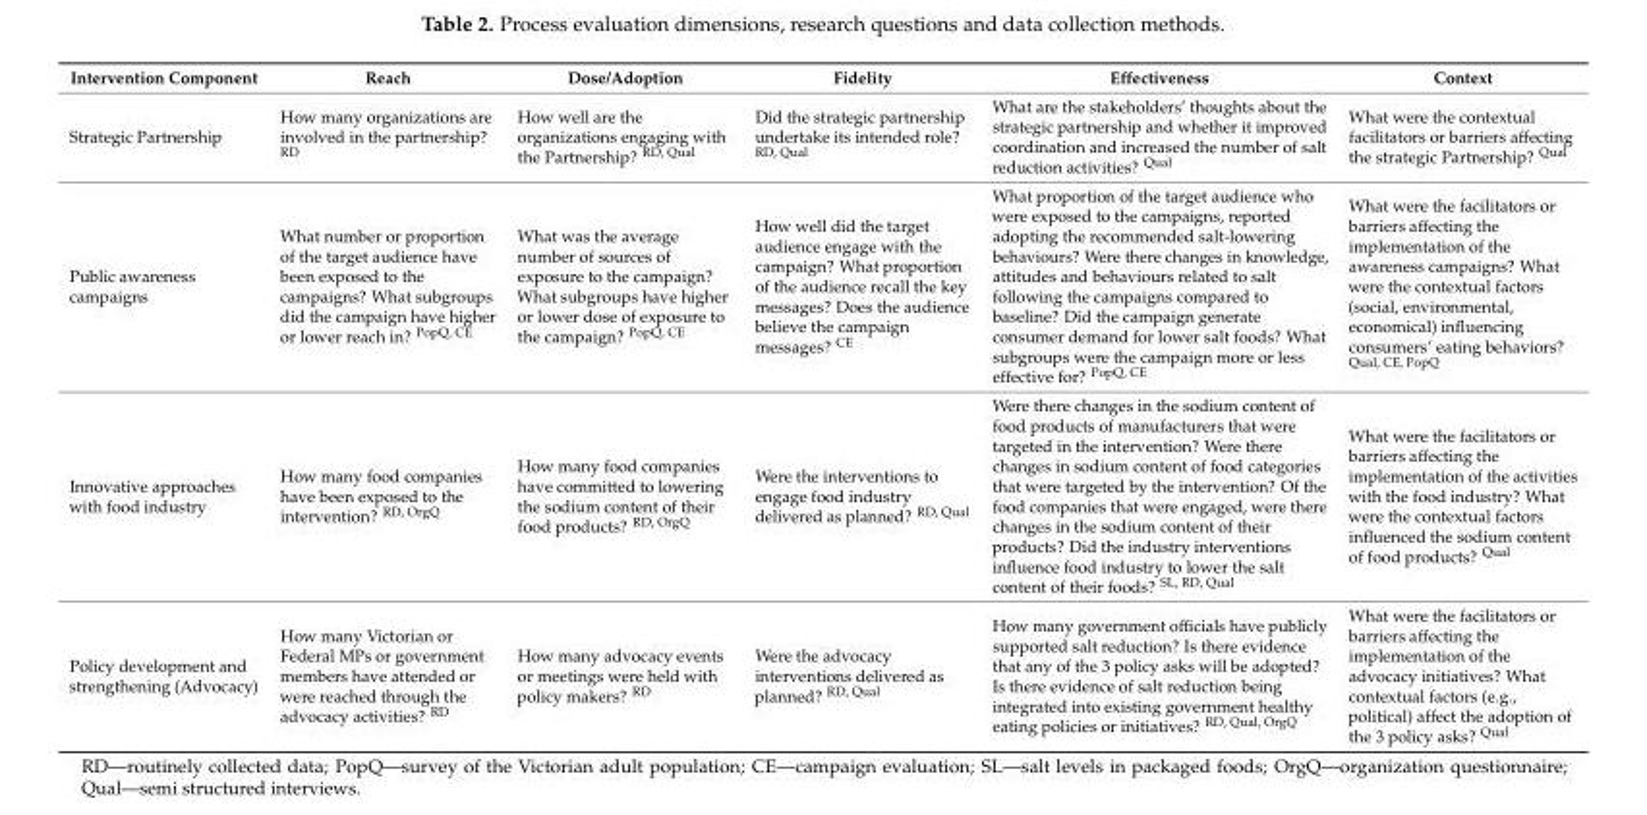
<table><thead><tr><td>Intervention Component</td><td>Reach</td><td>Dose/Adoption</td><td>Fidelity</td><td>Effectiveness</td><td>Context</td></tr></thead><tbody><tr><td>Strategic Partnership</td><td>How many organizations are involved in the partnership? <sup>RD</sup></td><td>How well are the organizations engaging with the Partnership? <sup>RD, Qual</sup></td><td>Did the strategic partnership undertake its intended role? <sup>RD, Qual</sup></td><td>What are the stakeholders’ thoughts about the strategic partnership and whether it improved coordination and increased the number of salt reduction activities? <sup>Qual</sup></td><td>What were the contextual facilitators or barriers affecting the strategic Partnership? <sup>Qual</sup></td></tr><tr><td>Public awareness campaigns</td><td>What number or proportion of the target audience have been exposed to the campaigns? What subgroups did the campaign have higher or lower reach in? <sup>PopQ, CE</sup></td><td>What was the average number of sources of exposure to the campaign? What subgroups have higher or lower dose of exposure to the campaign? <sup>PopQ, CE</sup></td><td>How well did the target audience engage with the campaign? What proportion of the audience recall the key messages? Does the audience believe the campaign messages? <sup>CE</sup></td><td>What proportion of the target audience who were exposed to the campaigns, reported adopting the recommended salt-lowering behaviours? Were there changes in knowledge, attitudes and behaviours related to salt following the campaigns compared to baseline? Did the campaign generate consumer demand for lower salt foods? What subgroups were the campaign more or less effective for? <sup>PopQ, CE</sup></td><td>What were the facilitators or barriers affecting the implementation of the awareness campaigns? What were the contextual factors (social, environmental, economical) influencing consumers’ eating behaviors? <sup>Qual, CE, PopQ</sup></td></tr><tr><td>Innovative approaches with food industry</td><td>How many food companies have been exposed to the intervention? <sup>RD, OrgQ</sup></td><td>How many food companies have committed to lowering the sodium content of their food products? <sup>RD, OrgQ</sup></td><td>Were the interventions to engage food industry delivered as planned? <sup>RD, Qual</sup></td><td>Were there changes in the sodium content of food products of manufacturers that were targeted in the intervention? Were there changes in sodium content of food categories that were targeted by the intervention? Of the food companies that were engaged, were there changes in the sodium content of their products? Did the industry interventions influence food industry to lower the salt content of their foods? <sup>SL, RD, Qual</sup></td><td>What were the facilitators or barriers affecting the implementation of the activities with the food industry? What were the contextual factors influenced the sodium content of food products? <sup>Qual</sup></td></tr><tr><td>Policy development and strengthening (Advocacy)</td><td>How many Victorian or Federal MPs or government members have attended or were reached through the advocacy activities? <sup>RD</sup></td><td>How many advocacy events or meetings were held with policy makers? <sup>RD</sup></td><td>Were the advocacy interventions delivered as planned? <sup>RD, Qual</sup></td><td>How many government officials have publicly supported salt reduction? Is there evidence that any of the 3 policy asks will be adopted? Is there evidence of salt reduction being integrated into existing government healthy eating policies or initiatives? <sup>RD, Qual, OrgQ</sup></td><td>What were the facilitators or barriers affecting the implementation of the advocacy initiatives? What contextual factors (e.g., political) affect the adoption of the 3 policy asks? <sup>Qual</sup></td></tr></tbody></table>